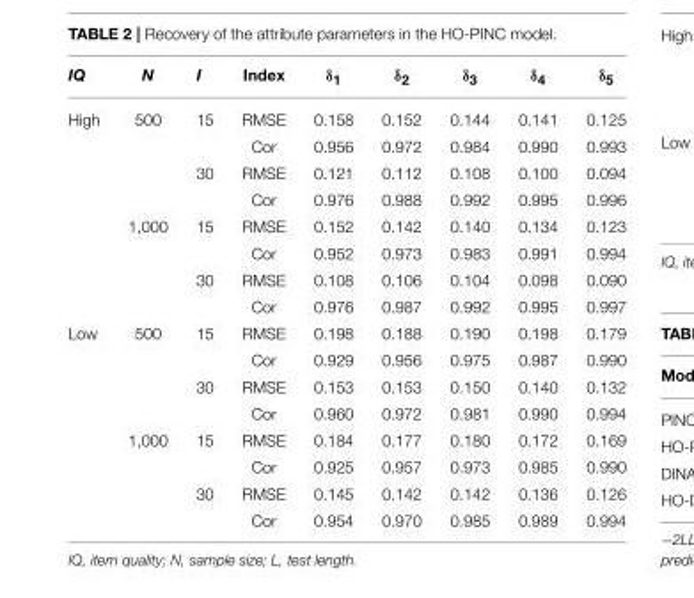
<table><thead><tr><td>IQ</td><td>N</td><td>I</td><td>Index</td><td>δ<sub>1</sub></td><td>δ<sub>2</sub></td><td>δ<sub>3</sub></td><td>δ<sub>4</sub></td><td>δ<sub>5</sub></td></tr></thead><tbody><tr><td rowspan="8">High</td><td>500</td><td>15</td><td>RMSE</td><td>0.158</td><td>0.152</td><td>0.144</td><td>0.141</td><td>0.125</td></tr><tr><td></td><td></td><td>Cor</td><td>0.956</td><td>0.972</td><td>0.984</td><td>0.990</td><td>0.993</td></tr><tr><td></td><td>30</td><td>RMSE</td><td>0.121</td><td>0.112</td><td>0.108</td><td>0.100</td><td>0.094</td></tr><tr><td></td><td></td><td>Cor</td><td>0.976</td><td>0.988</td><td>0.992</td><td>0.995</td><td>0.996</td></tr><tr><td>1,000</td><td>15</td><td>RMSE</td><td>0.152</td><td>0.142</td><td>0.140</td><td>0.134</td><td>0.123</td></tr><tr><td></td><td></td><td>Cor</td><td>0.952</td><td>0.973</td><td>0.983</td><td>0.991</td><td>0.994</td></tr><tr><td></td><td>30</td><td>RMSE</td><td>0.108</td><td>0.106</td><td>0.104</td><td>0.098</td><td>0.090</td></tr><tr><td></td><td></td><td>Cor</td><td>0.976</td><td>0.987</td><td>0.992</td><td>0.995</td><td>0.997</td></tr><tr><td rowspan="8">Low</td><td>500</td><td>15</td><td>RMSE</td><td>0.198</td><td>0.188</td><td>0.190</td><td>0.198</td><td>0.179</td></tr><tr><td></td><td></td><td>Cor</td><td>0.929</td><td>0.956</td><td>0.975</td><td>0.987</td><td>0.990</td></tr><tr><td></td><td>30</td><td>RMSE</td><td>0.153</td><td>0.153</td><td>0.150</td><td>0.140</td><td>0.132</td></tr><tr><td></td><td></td><td>Cor</td><td>0.960</td><td>0.972</td><td>0.981</td><td>0.990</td><td>0.994</td></tr><tr><td>1,000</td><td>15</td><td>RMSE</td><td>0.184</td><td>0.177</td><td>0.180</td><td>0.172</td><td>0.169</td></tr><tr><td></td><td></td><td>Cor</td><td>0.925</td><td>0.957</td><td>0.973</td><td>0.985</td><td>0.990</td></tr><tr><td></td><td>30</td><td>RMSE</td><td>0.145</td><td>0.142</td><td>0.142</td><td>0.136</td><td>0.126</td></tr><tr><td></td><td></td><td>Cor</td><td>0.954</td><td>0.970</td><td>0.985</td><td>0.989</td><td>0.994</td></tr></tbody></table>